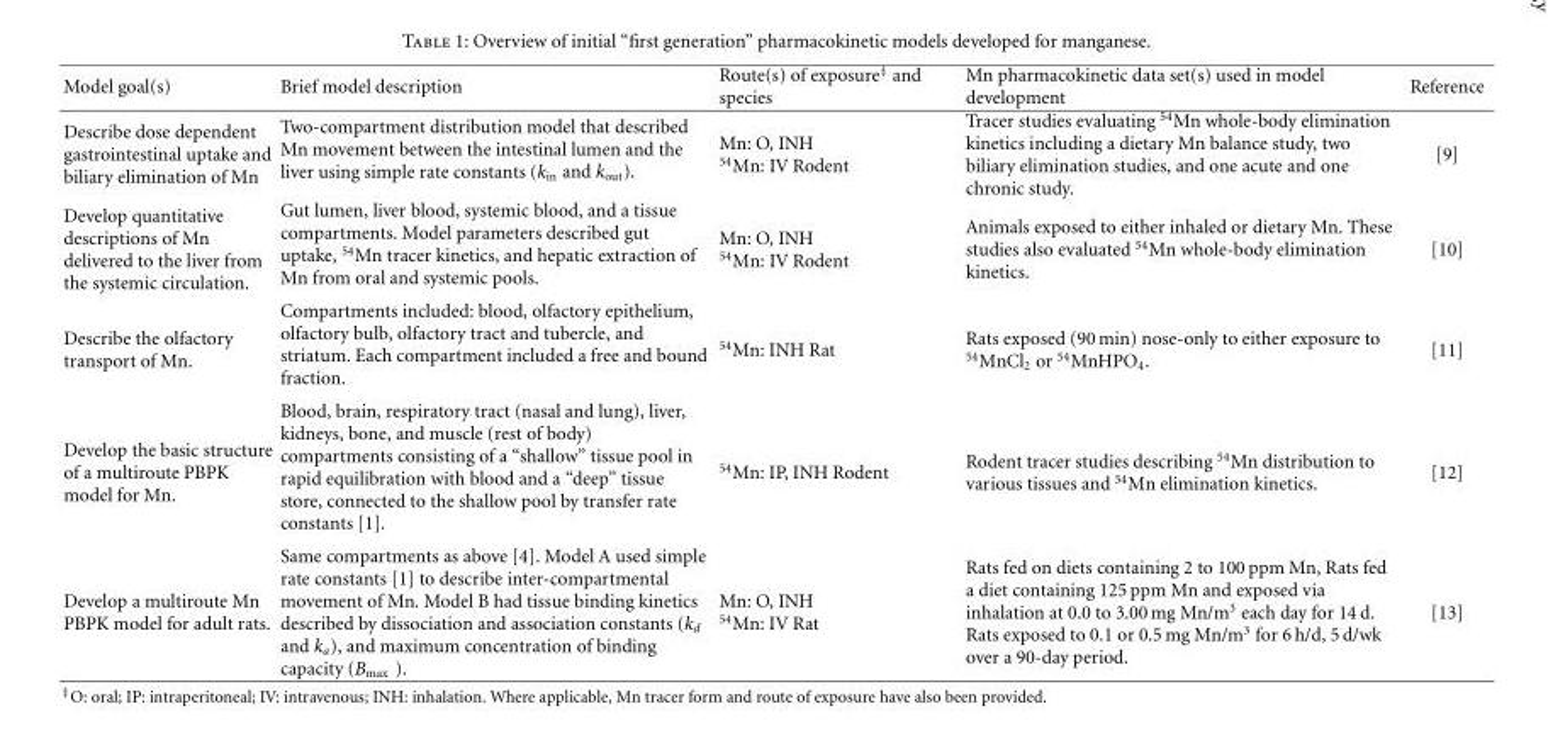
<table><thead><tr><td>Model goal(s)</td><td>Brief model description</td><td>Route(s) of exposure<sup>‡</sup> and species</td><td>Mn pharmacokinetic data set(s) used in model development</td><td>Reference</td></tr></thead><tbody><tr><td>Describe dose dependent gastrointestinal uptake and biliary elimination of Mn</td><td>Two-compartment distribution model that described Mn movement between the intestinal lumen and the liver using simple rate constants (k<sub>in</sub> and k<sub>out</sub>).</td><td>Mn: O, INH <sup>54</sup>Mn: IV Rodent</td><td>Tracer studies evaluating <sup>54</sup>Mn whole-body elimination kinetics including a dietary Mn balance study, two biliary elimination studies, and one acute and one chronic study.</td><td>[9]</td></tr><tr><td>Develop quantitative descriptions of Mn delivered to the liver from the systemic circulation.</td><td>Gut lumen, liver blood, systemic blood, and a tissue compartments. Model parameters described gut uptake, <sup>54</sup>Mn tracer kinetics, and hepatic extraction of Mn from oral and systemic pools.</td><td>Mn: O, INH <sup>54</sup>Mn: IV Rodent</td><td>Animals exposed to either inhaled or dietary Mn. These studies also evaluated <sup>54</sup>Mn whole-body elimination kinetics.</td><td>[10]</td></tr><tr><td>Describe the olfactory transport of Mn.</td><td>Compartments included: blood, olfactory epithelium, olfactory bulb, olfactory tract and tubercle, and striatum. Each compartment included a free and bound fraction.</td><td><sup>54</sup>Mn: INH Rat</td><td>Rats exposed (90 min) nose-only to either exposure to <sup>54</sup>MnCl<sub>2</sub> or <sup>54</sup>MnHPO<sub>4</sub>.</td><td>[11]</td></tr><tr><td>Develop the basic structure of a multiroute PBPK model for Mn.</td><td>Blood, brain, respiratory tract (nasal and lung), liver, kidneys, bone, and muscle (rest of body) compartments consisting of a “shallow” tissue pool in rapid equilibration with blood and a “deep” tissue store, connected to the shallow pool by transfer rate constants [1].</td><td><sup>54</sup>Mn: IP, INH Rodent</td><td>Rodent tracer studies describing <sup>54</sup>Mn distribution to various tissues and <sup>54</sup>Mn elimination kinetics.</td><td>[12]</td></tr><tr><td>Develop a multiroute Mn PBPK model for adult rats.</td><td>Same compartments as above [4]. Model A used simple rate constants [1] to describe inter-compartmental movement of Mn. Model B had tissue binding kinetics described by dissociation and association constants (k<sub>d</sub> and k<sub>a</sub>), and maximum concentration of binding capacity (B<sub>max</sub> ).</td><td>Mn: O, INH <sup>54</sup>Mn: IV Rat</td><td>Rats fed on diets containing 2 to 100 ppm Mn, Rats fed a diet containing 125 ppm Mn and exposed via inhalation at 0.0 to 3.00 mg Mn/m<sup>3</sup> each day for 14 d. Rats exposed to 0.1 or 0.5 mg Mn/m<sup>3</sup> for 6 h/d, 5 d/wk over a 90-day period.</td><td>[13]</td></tr></tbody></table>